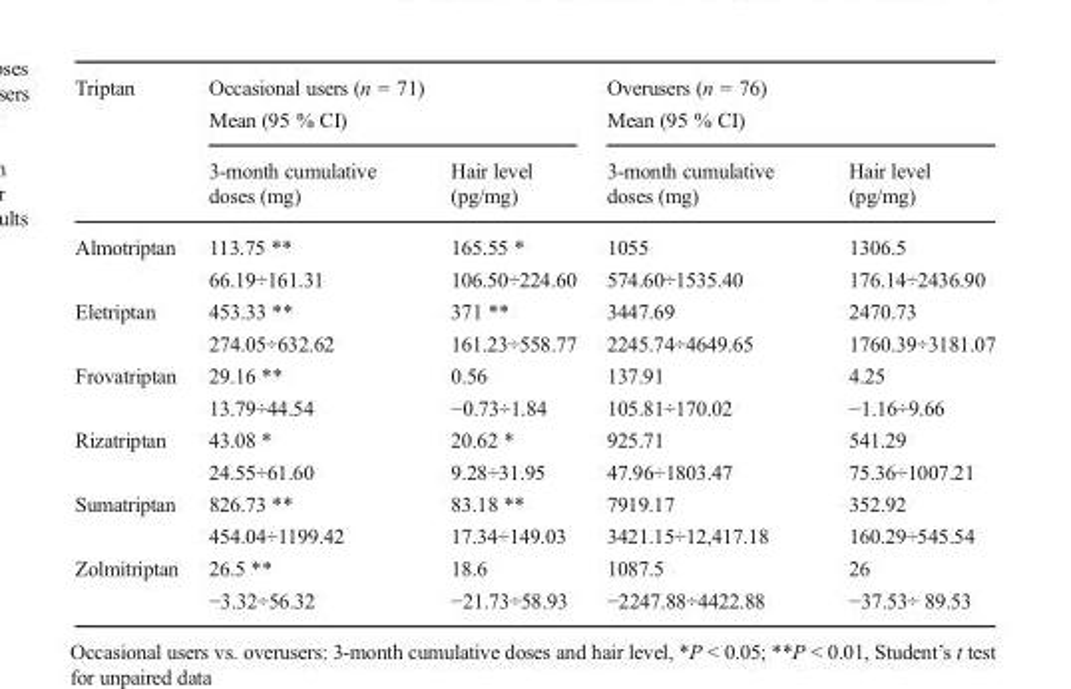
<table><thead><tr><td rowspan="2">Triptan</td><td colspan="2">Occasional users (n = 71) Mean (95 % CI)</td><td colspan="2">Overusers (n = 76) Mean (95 % CI)</td></tr><tr><td>3-month cumulative doses (mg)</td><td>Hair level (pg/mg)</td><td>3-month cumulative doses (mg)</td><td>Hair level (pg/mg)</td></tr></thead><tbody><tr><td>Almotriptan</td><td>113.75 ** 66.19÷161.31</td><td>165.55 * 106.50÷224.60</td><td>1055 574.60÷1535.40</td><td>1306.5 176.14÷2436.90</td></tr><tr><td>Eletriptan</td><td>453.33 ** 274.05÷632.62</td><td>371 ** 161.23÷558.77</td><td>3447.69 2245.74÷4649.65</td><td>2470.73 1760.39÷3181.07</td></tr><tr><td>Frovatriptan</td><td>29.16 ** 13.79÷44.54</td><td>0.56 −0.73÷1.84</td><td>137.91 105.81÷170.02</td><td>4.25 −1.16÷9.66</td></tr><tr><td>Rizatriptan</td><td>43.08 * 24.55÷61.60</td><td>20.62 * 9.28÷31.95</td><td>925.71 47.96÷1803.47</td><td>541.29 75.36÷1007.21</td></tr><tr><td>Sumatriptan</td><td>826.73 ** 454.04÷1199.42</td><td>83.18 ** 17.34÷149.03</td><td>7919.17 3421.15÷12,417.18</td><td>352.92 160.29÷545.54</td></tr><tr><td>Zolmitriptan</td><td>26.5 ** −3.32÷56.32</td><td>18.6 −21.73÷58.93</td><td>1087.5 −2247.88÷4422.88</td><td>26 −37.53÷ 89.53</td></tr></tbody></table>